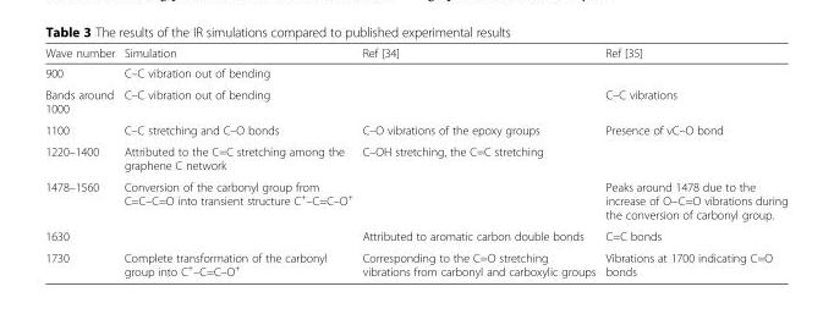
<table><thead><tr><td>Wave number</td><td>Simulation</td><td>Ref [34]</td><td>Ref [35]</td></tr></thead><tbody><tr><td>900</td><td>C–C vibration out of bending</td><td></td><td></td></tr><tr><td>Bands around 1000</td><td>C–C vibration out of bending</td><td></td><td>C–C vibrations</td></tr><tr><td>1100</td><td>C–C stretching and C–O bonds</td><td>C–O vibrations of the epoxy groups</td><td>Presence of νC–O bond</td></tr><tr><td>1220–1400</td><td>Attributed to the C=C stretching among the graphene C network</td><td>C–OH stretching, the C=C stretching</td><td></td></tr><tr><td>1478–1560</td><td>Conversion of the carbonyl group from C=C–C=O into transient structure C<sup>+</sup>–C=C–O<sup>+</sup></td><td></td><td>Peaks around 1478 due to the increase of O−C=O vibrations during the conversion of carbonyl group.</td></tr><tr><td>1630</td><td></td><td>Attributed to aromatic carbon double bonds</td><td>C=C bonds</td></tr><tr><td>1730</td><td>Complete transformation of the carbonyl group into C<sup>+</sup>–C=C–O<sup>+</sup></td><td>Corresponding to the C=O stretching vibrations from carbonyl and carboxylic groups</td><td>Vibrations at 1700 indicating C=O bonds</td></tr></tbody></table>